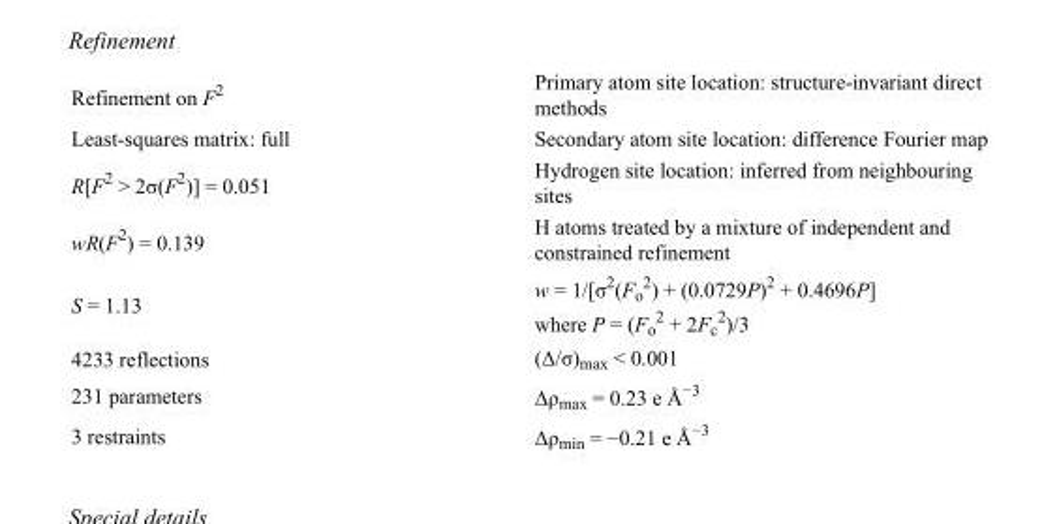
<table><tbody><tr><td>Refinement on F<sup>2</sup></td><td>Primary atom site location: structure-invariant direct methods</td></tr><tr><td>Least-squares matrix: full</td><td>Secondary atom site location: difference Fourier map</td></tr><tr><td>R[F<sup>2</sup> &gt; 2σ(F<sup>2</sup>)] = 0.051</td><td>Hydrogen site location: inferred from neighbouring sites</td></tr><tr><td>wR(F<sup>2</sup>) = 0.139</td><td>H atoms treated by a mixture of independent and constrained refinement</td></tr><tr><td>S = 1.13</td><td>w = 1/[σ<sup>2</sup>(F<sub>o</sub> <sup>2</sup>) + (0.0729P)<sup>2</sup> + 0.4696P] where P = (F<sub>o</sub> <sup>2</sup> + 2F<sub>c</sub> <sup>2</sup>)/3</td></tr><tr><td>4233 reflections</td><td>(Δ/σ)<sub>max</sub> &lt; 0.001</td></tr><tr><td>231 parameters</td><td>Δρ<sub>max</sub> = 0.23 e Å<sup>−3</sup></td></tr><tr><td>3 restraints</td><td>Δρ<sub>min</sub> = −0.21 e Å<sup>−3</sup></td></tr></tbody></table>